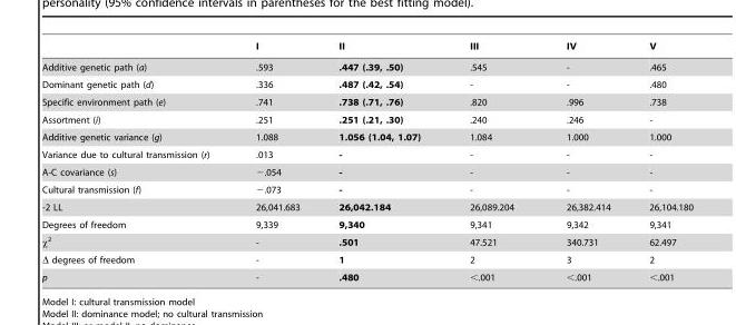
<table><thead><tr><td></td><td>I</td><td>II</td><td>III</td><td>IV</td><td>V</td></tr></thead><tbody><tr><td>Additive genetic path (a)</td><td>.593</td><td>.447 (.39, .50)</td><td>.545</td><td>-</td><td>.465</td></tr><tr><td>Dominant genetic path (d)</td><td>.336</td><td>.487 (.42, .54)</td><td>-</td><td>-</td><td>.480</td></tr><tr><td>Specific environment path (e)</td><td>.741</td><td>.738 (.71, .76)</td><td>.820</td><td>.996</td><td>.738</td></tr><tr><td>Assortment (i)</td><td>.251</td><td>.251 (.21, .30)</td><td>.240</td><td>.246</td><td>-</td></tr><tr><td>Additive genetic variance (g)</td><td>1.088</td><td>1.056 (1.04, 1.07)</td><td>1.084</td><td>1.000</td><td>1.000</td></tr><tr><td>Variance due to cultural transmission (r)</td><td>.013</td><td>-</td><td>-</td><td>-</td><td>-</td></tr><tr><td>A-C covariance (s)</td><td>−.054</td><td>-</td><td>-</td><td>-</td><td>-</td></tr><tr><td>Cultural transmission (f)</td><td>−.073</td><td>-</td><td>-</td><td>-</td><td>-</td></tr><tr><td>-2 LL</td><td>26,041.683</td><td>26,042.184</td><td>26,089.204</td><td>26,382.414</td><td>26,104.180</td></tr><tr><td>Degrees of freedom</td><td>9,339</td><td>9,340</td><td>9,341</td><td>9,342</td><td>9,341</td></tr><tr><td>χ<sup>2</sup></td><td>-</td><td>.501</td><td>47.521</td><td>340.731</td><td>62.497</td></tr><tr><td>Δ degrees of freedom</td><td>-</td><td>1</td><td>2</td><td>3</td><td>2</td></tr><tr><td>p</td><td>-</td><td>.480</td><td>&lt;.001</td><td>&lt;.001</td><td>&lt;.001</td></tr></tbody></table>